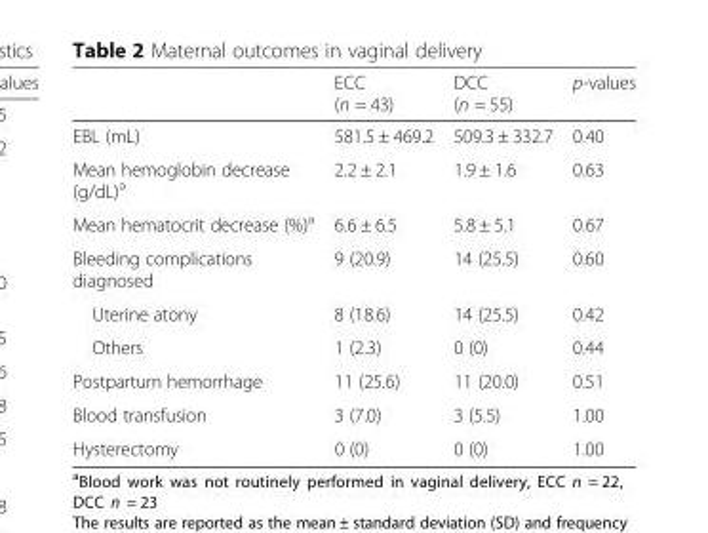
<table><thead><tr><td></td><td>ECC (n = 43)</td><td>DCC (n = 55)</td><td>p-values</td></tr></thead><tbody><tr><td>EBL (mL)</td><td>581.5 ± 469.2</td><td>509.3 ± 332.7</td><td>0.40</td></tr><tr><td>Mean hemoglobin decrease (g/dL)<sup>a</sup></td><td>2.2 ± 2.1</td><td>1.9 ± 1.6</td><td>0.63</td></tr><tr><td>Mean hematocrit decrease (%)<sup>a</sup></td><td>6.6 ± 6.5</td><td>5.8 ± 5.1</td><td>0.67</td></tr><tr><td>Bleeding complications diagnosed</td><td>9 (20.9)</td><td>14 (25.5)</td><td>0.60</td></tr><tr><td>Uterine atony</td><td>8 (18.6)</td><td>14 (25.5)</td><td>0.42</td></tr><tr><td>Others</td><td>1 (2.3)</td><td>0 (0)</td><td>0.44</td></tr><tr><td>Postpartum hemorrhage</td><td>11 (25.6)</td><td>11 (20.0)</td><td>0.51</td></tr><tr><td>Blood transfusion</td><td>3 (7.0)</td><td>3 (5.5)</td><td>1.00</td></tr><tr><td>Hysterectomy</td><td>0 (0)</td><td>0 (0)</td><td>1.00</td></tr></tbody></table>